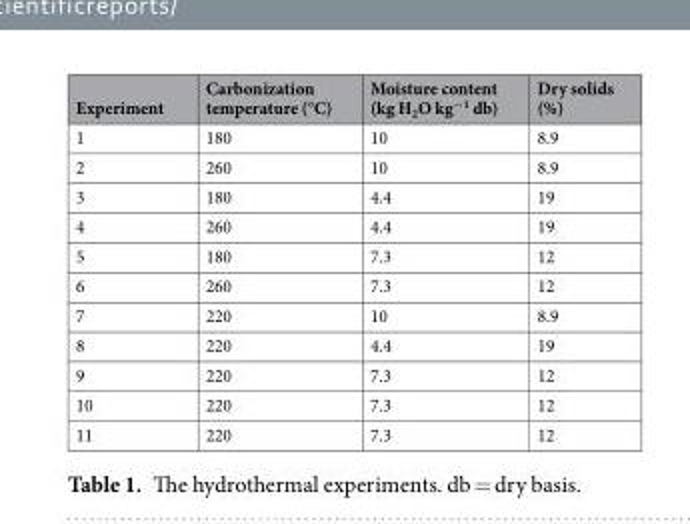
<table><thead><tr><td>Experiment</td><td>Carbonization temperature (°C)</td><td>Moisture content (kg H<sub>2</sub>O kg<sup>−1</sup> db)</td><td>Dry solids (%)</td></tr></thead><tbody><tr><td>1</td><td>180</td><td>10</td><td>8.9</td></tr><tr><td>2</td><td>260</td><td>10</td><td>8.9</td></tr><tr><td>3</td><td>180</td><td>4.4</td><td>19</td></tr><tr><td>4</td><td>260</td><td>4.4</td><td>19</td></tr><tr><td>5</td><td>180</td><td>7.3</td><td>12</td></tr><tr><td>6</td><td>260</td><td>7.3</td><td>12</td></tr><tr><td>7</td><td>220</td><td>10</td><td>8.9</td></tr><tr><td>8</td><td>220</td><td>4.4</td><td>19</td></tr><tr><td>9</td><td>220</td><td>7.3</td><td>12</td></tr><tr><td>10</td><td>220</td><td>7.3</td><td>12</td></tr><tr><td>11</td><td>220</td><td>7.3</td><td>12</td></tr></tbody></table>